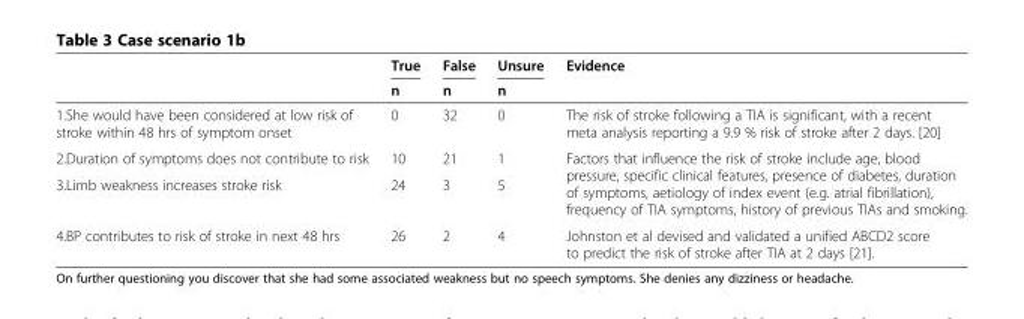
<table><thead><tr><td rowspan="2"></td><td rowspan="2">True n</td><td rowspan="2">False n</td><td rowspan="2">Unsure n</td><td rowspan="2">Evidence</td></tr><tr></tr></thead><tbody><tr><td>1.She would have been considered at low risk of stroke within 48 hrs of symptom onset</td><td>0</td><td>32</td><td>0</td><td>The risk of stroke following a TIA is significant, with a recent meta analysis reporting a 9.9 % risk of stroke after 2 days. [20]</td></tr><tr><td>2.Duration of symptoms does not contribute to risk</td><td>10</td><td>21</td><td>1</td><td rowspan="2">Factors that influence the risk of stroke include age, blood pressure, specific clinical features, presence of diabetes, duration of symptoms, aetiology of index event (e.g. atrial fibrillation), frequency of TIA symptoms, history of previous TIAs and smoking.</td></tr><tr><td>3.Limb weakness increases stroke risk</td><td>24</td><td>3</td><td>5</td></tr><tr><td>4.BP contributes to risk of stroke in next 48 hrs</td><td>26</td><td>2</td><td>4</td><td>Johnston et al devised and validated a unified ABCD2 score to predict the risk of stroke after TIA at 2 days [21].</td></tr></tbody></table>